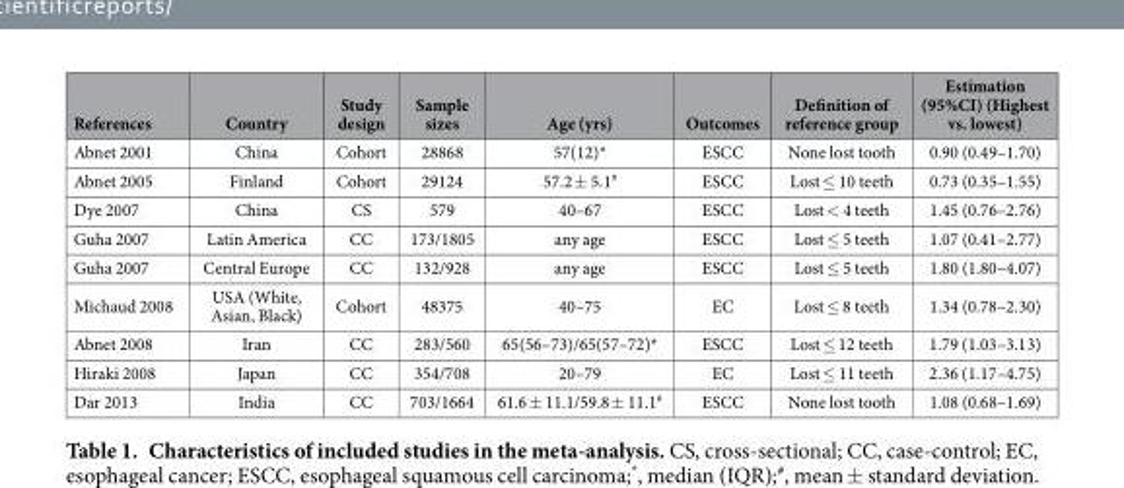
<table><thead><tr><td>References</td><td>Country</td><td>Study design</td><td>Sample sizes</td><td>Age (yrs)</td><td>Outcomes</td><td>Definition of reference group</td><td>Estimation (95%CI) (Highest vs. lowest)</td></tr></thead><tbody><tr><td>Abnet 2001</td><td>China</td><td>Cohort</td><td>28868</td><td>57(12)*</td><td>ESCC</td><td>None lost tooth</td><td>0.90 (0.49–1.70)</td></tr><tr><td>Abnet 2005</td><td>Finland</td><td>Cohort</td><td>29124</td><td>57.2 ± 5.1<sup>#</sup></td><td>ESCC</td><td>Lost ≤ 10 teeth</td><td>0.73 (0.35–1.55)</td></tr><tr><td>Dye 2007</td><td>China</td><td>CS</td><td>579</td><td>40–67</td><td>ESCC</td><td>Lost &lt; 4 teeth</td><td>1.45 (0.76–2.76)</td></tr><tr><td>Guha 2007</td><td>Latin America</td><td>CC</td><td>173/1805</td><td>any age</td><td>ESCC</td><td>Lost ≤ 5 teeth</td><td>1.07 (0.41–2.77)</td></tr><tr><td>Guha 2007</td><td>Central Europe</td><td>CC</td><td>132/928</td><td>any age</td><td>ESCC</td><td>Lost ≤ 5 teeth</td><td>1.80 (1.80–4.07)</td></tr><tr><td>Michaud 2008</td><td>USA (White, Asian, Black)</td><td>Cohort</td><td>48375</td><td>40–75</td><td>EC</td><td>Lost ≤ 8 teeth</td><td>1.34 (0.78–2.30)</td></tr><tr><td>Abnet 2008</td><td>Iran</td><td>CC</td><td>283/560</td><td>65(56–73)/65(57–72)*</td><td>ESCC</td><td>Lost ≤ 12 teeth</td><td>1.79 (1.03–3.13)</td></tr><tr><td>Hiraki 2008</td><td>Japan</td><td>CC</td><td>354/708</td><td>20–79</td><td>EC</td><td>Lost ≤ 11 teeth</td><td>2.36 (1.17–4.75)</td></tr><tr><td>Dar 2013</td><td>India</td><td>CC</td><td>703/1664</td><td>61.6 ± 11.1/59.8 ± 11.1<sup>#</sup></td><td>ESCC</td><td>None lost tooth</td><td>1.08 (0.68–1.69)</td></tr></tbody></table>